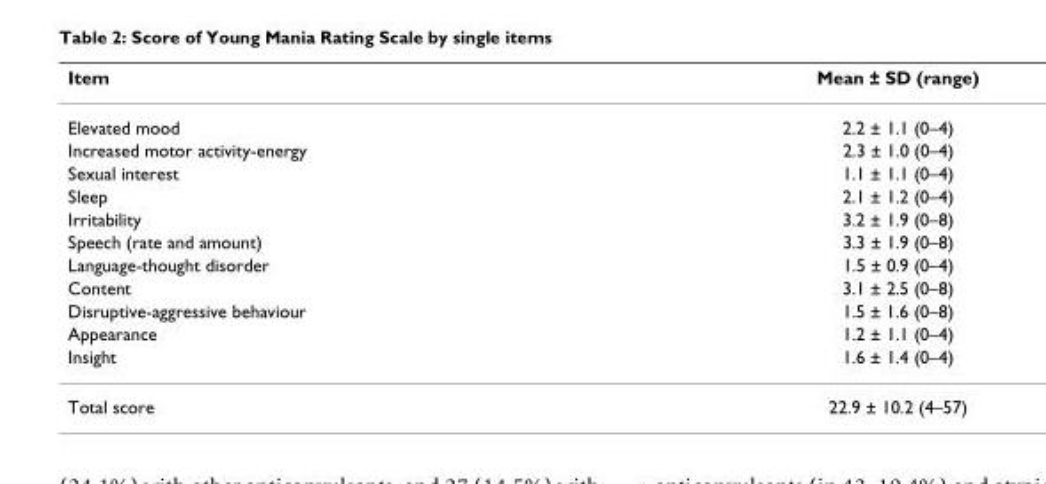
<table><thead><tr><td>Item</td><td>Mean ± SD (range)</td></tr></thead><tbody><tr><td>Elevated mood</td><td>2.2 ± 1.1 (0–4)</td></tr><tr><td>Increased motor activity-energy</td><td>2.3 ± 1.0 (0–4)</td></tr><tr><td>Sexual interest</td><td>1.1 ± 1.1 (0–4)</td></tr><tr><td>Sleep</td><td>2.1 ± 1.2 (0–4)</td></tr><tr><td>Irritability</td><td>3.2 ± 1.9 (0–8)</td></tr><tr><td>Speech (rate and amount)</td><td>3.3 ± 1.9 (0–8)</td></tr><tr><td>Language-thought disorder</td><td>1.5 ± 0.9 (0–4)</td></tr><tr><td>Content</td><td>3.1 ± 2.5 (0–8)</td></tr><tr><td>Disruptive-aggressive behaviour</td><td>1.5 ± 1.6 (0–8)</td></tr><tr><td>Appearance</td><td>1.2 ± 1.1 (0–4)</td></tr><tr><td>Insight</td><td>1.6 ± 1.4 (0–4)</td></tr><tr><td>Total score</td><td>22.9 ± 10.2 (4–57)</td></tr></tbody></table>